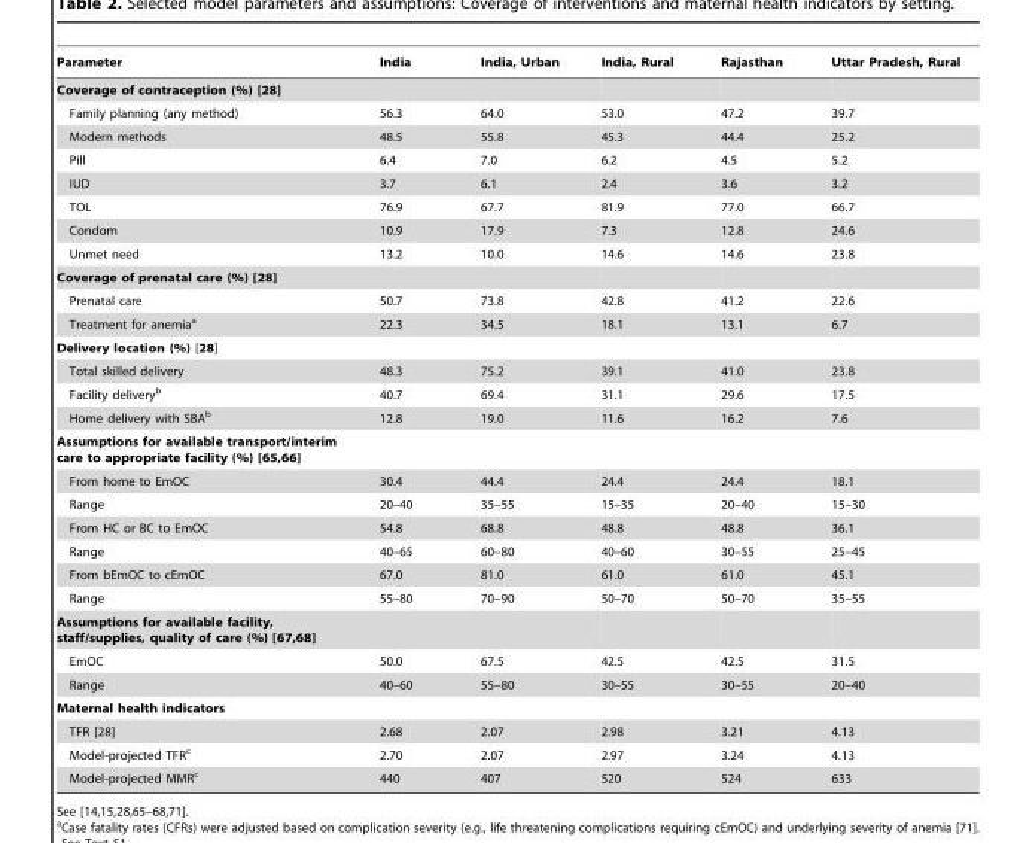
<table><thead><tr><td>Parameter</td><td>India</td><td>India, Urban</td><td>India, Rural</td><td>Rajasthan</td><td>Uttar Pradesh, Rural</td></tr></thead><tbody><tr><td colspan="6">Coverage of contraception (%) [28]</td></tr><tr><td>Family planning (any method)</td><td>56.3</td><td>64.0</td><td>53.0</td><td>47.2</td><td>39.7</td></tr><tr><td>Modern methods</td><td>48.5</td><td>55.8</td><td>45.3</td><td>44.4</td><td>25.2</td></tr><tr><td>Pill</td><td>6.4</td><td>7.0</td><td>6.2</td><td>4.5</td><td>5.2</td></tr><tr><td>IUD</td><td>3.7</td><td>6.1</td><td>2.4</td><td>3.6</td><td>3.2</td></tr><tr><td>TOL</td><td>76.9</td><td>67.7</td><td>81.9</td><td>77.0</td><td>66.7</td></tr><tr><td>Condom</td><td>10.9</td><td>17.9</td><td>7.3</td><td>12.8</td><td>24.6</td></tr><tr><td>Unmet need</td><td>13.2</td><td>10.0</td><td>14.6</td><td>14.6</td><td>23.8</td></tr><tr><td colspan="6">Coverage of prenatal care (%) [28]</td></tr><tr><td>Prenatal care</td><td>50.7</td><td>73.8</td><td>42.8</td><td>41.2</td><td>22.6</td></tr><tr><td>Treatment for anemia<sup>a</sup></td><td>22.3</td><td>34.5</td><td>18.1</td><td>13.1</td><td>6.7</td></tr><tr><td colspan="6">Delivery location (%) [28]</td></tr><tr><td>Total skilled delivery</td><td>48.3</td><td>75.2</td><td>39.1</td><td>41.0</td><td>23.8</td></tr><tr><td>Facility delivery<sup>b</sup></td><td>40.7</td><td>69.4</td><td>31.1</td><td>29.6</td><td>17.5</td></tr><tr><td>Home delivery with SBA<sup>b</sup></td><td>12.8</td><td>19.0</td><td>11.6</td><td>16.2</td><td>7.6</td></tr><tr><td colspan="6">Assumptions for available transport/interim care to appropriate facility (%) [65,66]</td></tr><tr><td>From home to EmOC</td><td>30.4</td><td>44.4</td><td>24.4</td><td>24.4</td><td>18.1</td></tr><tr><td>Range</td><td>20–40</td><td>35–55</td><td>15–35</td><td>20–40</td><td>15–30</td></tr><tr><td>From HC or BC to EmOC</td><td>54.8</td><td>68.8</td><td>48.8</td><td>48.8</td><td>36.1</td></tr><tr><td>Range</td><td>40–65</td><td>60–80</td><td>40–60</td><td>30–55</td><td>25–45</td></tr><tr><td>From bEmOC to cEmOC</td><td>67.0</td><td>81.0</td><td>61.0</td><td>61.0</td><td>45.1</td></tr><tr><td>Range</td><td>55–80</td><td>70–90</td><td>50–70</td><td>50–70</td><td>35–55</td></tr><tr><td colspan="6">Assumptions for available facility, staff/supplies, quality of care (%) [67,68]</td></tr><tr><td>EmOC</td><td>50.0</td><td>67.5</td><td>42.5</td><td>42.5</td><td>31.5</td></tr><tr><td>Range</td><td>40–60</td><td>55–80</td><td>30–55</td><td>30–55</td><td>20–40</td></tr><tr><td colspan="6">Maternal health indicators</td></tr><tr><td>TFR [28]</td><td>2.68</td><td>2.07</td><td>2.98</td><td>3.21</td><td>4.13</td></tr><tr><td>Model-projected TFR<sup>c</sup></td><td>2.70</td><td>2.07</td><td>2.97</td><td>3.24</td><td>4.13</td></tr><tr><td>Model-projected MMR<sup>c</sup></td><td>440</td><td>407</td><td>520</td><td>524</td><td>633</td></tr></tbody></table>